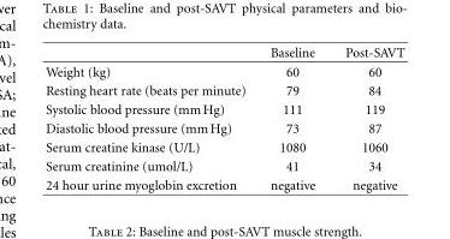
<table><thead><tr><td></td><td>Baseline</td><td>Post-SAVT</td></tr></thead><tbody><tr><td>Weight (kg)</td><td>60</td><td>60</td></tr><tr><td>Resting heart rate (beats per minute)</td><td>79</td><td>84</td></tr><tr><td>Systolic blood pressure (mm Hg)</td><td>111</td><td>119</td></tr><tr><td>Diastolic blood pressure (mm Hg)</td><td>73</td><td>87</td></tr><tr><td>Serum creatine kinase (U/L)</td><td>1080</td><td>1060</td></tr><tr><td>Serum creatinine (umol/L)</td><td>41</td><td>34</td></tr><tr><td>24 hour urine myoglobin excretion</td><td>negative</td><td>negative</td></tr></tbody></table>